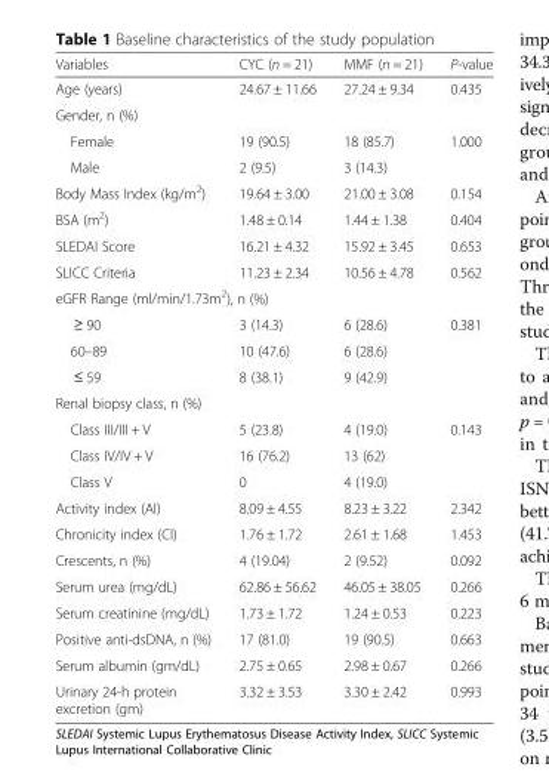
<table><thead><tr><td>Variables</td><td>CYC (n = 21)</td><td>MMF (n = 21)</td><td>P-value</td></tr></thead><tbody><tr><td>Age (years)</td><td>24.67 ± 11.66</td><td>27.24 ± 9.34</td><td>0.435</td></tr><tr><td colspan="4">Gender, n (%)</td></tr><tr><td>Female</td><td>19 (90.5)</td><td>18 (85.7)</td><td>1.000</td></tr><tr><td>Male</td><td>2 (9.5)</td><td>3 (14.3)</td><td></td></tr><tr><td>Body Mass Index (kg/m<sup>2</sup>)</td><td>19.64 ± 3.00</td><td>21.00 ± 3.08</td><td>0.154</td></tr><tr><td>BSA (m<sup>2</sup>)</td><td>1.48 ± 0.14</td><td>1.44 ± 1.38</td><td>0.404</td></tr><tr><td>SLEDAI Score</td><td>16.21 ± 4.32</td><td>15.92 ± 3.45</td><td>0.653</td></tr><tr><td>SLICC Criteria</td><td>11.23 ± 2.34</td><td>10.56 ± 4.78</td><td>0.562</td></tr><tr><td colspan="4">eGFR Range (ml/min/1.73m<sup>2</sup>), n (%)</td></tr><tr><td>≥ 90</td><td>3 (14.3)</td><td>6 (28.6)</td><td>0.381</td></tr><tr><td>60–89</td><td>10 (47.6)</td><td>6 (28.6)</td><td></td></tr><tr><td>≤ 59</td><td>8 (38.1)</td><td>9 (42.9)</td><td></td></tr><tr><td colspan="4">Renal biopsy class, n (%)</td></tr><tr><td>Class III/III + V</td><td>5 (23.8)</td><td>4 (19.0)</td><td>0.143</td></tr><tr><td>Class IV/IV + V</td><td>16 (76.2)</td><td>13 (62)</td><td></td></tr><tr><td>Class V</td><td>0</td><td>4 (19.0)</td><td></td></tr><tr><td>Activity index (AI)</td><td>8.09 ± 4.55</td><td>8.23 ± 3.22</td><td>2.342</td></tr><tr><td>Chronicity index (CI)</td><td>1.76 ± 1.72</td><td>2.61 ± 1.68</td><td>1.453</td></tr><tr><td>Crescents, n (%)</td><td>4 (19.04)</td><td>2 (9.52)</td><td>0.092</td></tr><tr><td>Serum urea (mg/dL)</td><td>62.86 ± 56.62</td><td>46.05 ± 38.05</td><td>0.266</td></tr><tr><td>Serum creatinine (mg/dL)</td><td>1.73 ± 1.72</td><td>1.24 ± 0.53</td><td>0.223</td></tr><tr><td>Positive anti-dsDNA, n (%)</td><td>17 (81.0)</td><td>19 (90.5)</td><td>0.663</td></tr><tr><td>Serum albumin (gm/dL)</td><td>2.75 ± 0.65</td><td>2.98 ± 0.67</td><td>0.266</td></tr><tr><td>Urinary 24-h protein excretion (gm)</td><td>3.32 ± 3.53</td><td>3.30 ± 2.42</td><td>0.993</td></tr></tbody></table>